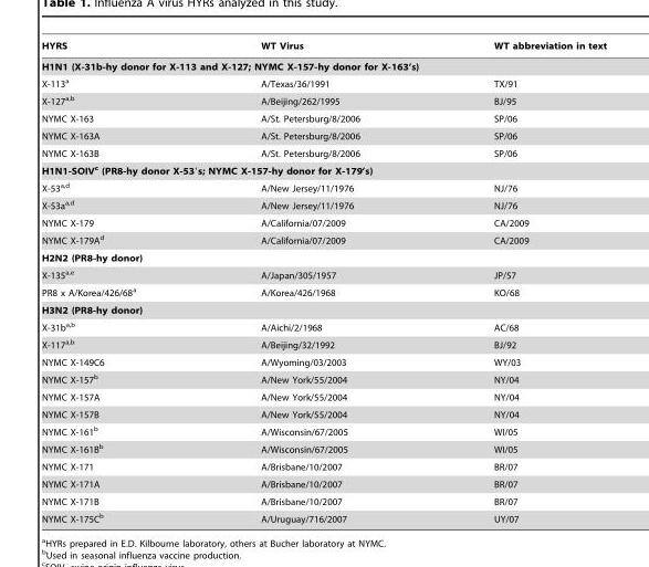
<table><thead><tr><td>HYRS</td><td>WT Virus</td><td>WT abbreviation in text</td></tr></thead><tbody><tr><td colspan="3">H1N1 (X-31b-hy donor for X-113 and X-127; NYMC X-157-hy donor for X-163’s)</td></tr><tr><td>X-113<sup>a</sup></td><td>A/Texas/36/1991</td><td>TX/91</td></tr><tr><td>X-127a,b</td><td>A/Beijing/262/1995</td><td>BJ/95</td></tr><tr><td>NYMC X-163</td><td>A/St. Petersburg/8/2006</td><td>SP/06</td></tr><tr><td>NYMC X-163A</td><td>A/St. Petersburg/8/2006</td><td>SP/06</td></tr><tr><td>NYMC X-163B</td><td>A/St. Petersburg/8/2006</td><td>SP/06</td></tr><tr><td colspan="3">H1N1-SOIVc (PR8-hy donor X-53′s; NYMC X-157-hy donor for X-179’s)</td></tr><tr><td>X-53a,d</td><td>A/New Jersey/11/1976</td><td>NJ/76</td></tr><tr><td>X-53aa,d</td><td>A/New Jersey/11/1976</td><td>NJ/76</td></tr><tr><td>NYMC X-179</td><td>A/California/07/2009</td><td>CA/2009</td></tr><tr><td>NYMC X-179A<sup>d</sup></td><td>A/California/07/2009</td><td>CA/2009</td></tr><tr><td colspan="3">H2N2 (PR8-hy donor)</td></tr><tr><td>X-135a,e</td><td>A/Japan/305/1957</td><td>JP/57</td></tr><tr><td>PR8 x A/Korea/426/68<sup>a</sup></td><td>A/Korea/426/1968</td><td>KO/68</td></tr><tr><td colspan="3">H3N2 (PR8-hy donor)</td></tr><tr><td>X-31ba,b</td><td>A/Aichi/2/1968</td><td>AC/68</td></tr><tr><td>X-117a,b</td><td>A/Beijing/32/1992</td><td>BJ/92</td></tr><tr><td>NYMC X-149C6</td><td>A/Wyoming/03/2003</td><td>WY/03</td></tr><tr><td>NYMC X-157<sup>b</sup></td><td>A/New York/55/2004</td><td>NY/04</td></tr><tr><td>NYMC X-157A</td><td>A/New York/55/2004</td><td>NY/04</td></tr><tr><td>NYMC X-157B</td><td>A/New York/55/2004</td><td>NY/04</td></tr><tr><td>NYMC X-161<sup>b</sup></td><td>A/Wisconsin/67/2005</td><td>WI/05</td></tr><tr><td>NYMC X-161B<sup>b</sup></td><td>A/Wisconsin/67/2005</td><td>WI/05</td></tr><tr><td>NYMC X-171</td><td>A/Brisbane/10/2007</td><td>BR/07</td></tr><tr><td>NYMC X-171A</td><td>A/Brisbane/10/2007</td><td>BR/07</td></tr><tr><td>NYMC X-171B</td><td>A/Brisbane/10/2007</td><td>BR/07</td></tr><tr><td>NYMC X-175C<sup>b</sup></td><td>A/Uruguay/716/2007</td><td>UY/07</td></tr></tbody></table>